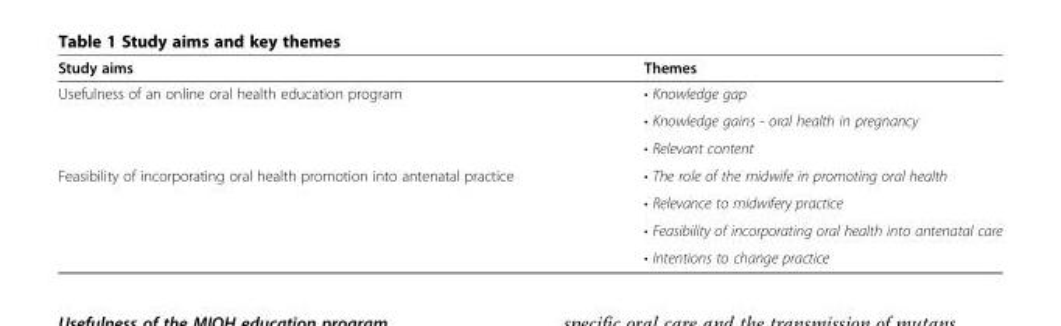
<table><thead><tr><td>Study aims</td><td>Themes</td></tr></thead><tbody><tr><td rowspan="3">Usefulness of an online oral health education program</td><td>• Knowledge gap</td></tr><tr><td>• Knowledge gains - oral health in pregnancy</td></tr><tr><td>• Relevant content</td></tr><tr><td rowspan="4">Feasibility of incorporating oral health promotion into antenatal practice</td><td>• The role of the midwife in promoting oral health</td></tr><tr><td>• Relevance to midwifery practice</td></tr><tr><td>• Feasibility of incorporating oral health into antenatal care</td></tr><tr><td>• Intentions to change practice</td></tr></tbody></table>